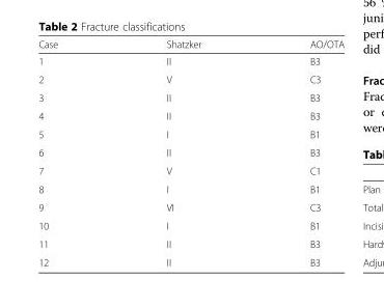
<table><thead><tr><td>Case</td><td>Shatzker</td><td>AO/OTA</td></tr></thead><tbody><tr><td>1</td><td>II</td><td>B3</td></tr><tr><td>2</td><td>V</td><td>C3</td></tr><tr><td>3</td><td>II</td><td>B3</td></tr><tr><td>4</td><td>II</td><td>B3</td></tr><tr><td>5</td><td>I</td><td>B1</td></tr><tr><td>6</td><td>II</td><td>B3</td></tr><tr><td>7</td><td>V</td><td>C1</td></tr><tr><td>8</td><td>I</td><td>B1</td></tr><tr><td>9</td><td>VI</td><td>C3</td></tr><tr><td>10</td><td>I</td><td>B1</td></tr><tr><td>11</td><td>II</td><td>B3</td></tr><tr><td>12</td><td>II</td><td>B3</td></tr></tbody></table>